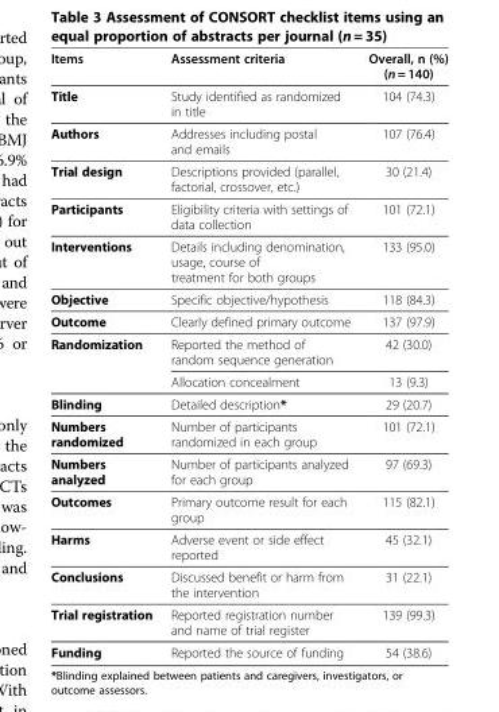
<table><thead><tr><td>Items</td><td>Assessment criteria</td><td>Overall, n (%) (n = 140)</td></tr></thead><tbody><tr><td>Title</td><td>Study identified as randomized in title</td><td>104 (74.3)</td></tr><tr><td>Authors</td><td>Addresses including postal and emails</td><td>107 (76.4)</td></tr><tr><td>Trial design</td><td>Descriptions provided (parallel, factorial, crossover, etc.)</td><td>30 (21.4)</td></tr><tr><td>Participants</td><td>Eligibility criteria with settings of data collection</td><td>101 (72.1)</td></tr><tr><td>Interventions</td><td>Details including denomination, usage, course of treatment for both groups</td><td>133 (95.0)</td></tr><tr><td>Objective</td><td>Specific objective/hypothesis</td><td>118 (84.3)</td></tr><tr><td>Outcome</td><td>Clearly defined primary outcome</td><td>137 (97.9)</td></tr><tr><td rowspan="2">Randomization</td><td>Reported the method of random sequence generation</td><td>42 (30.0)</td></tr><tr><td>Allocation concealment</td><td>13 (9.3)</td></tr><tr><td>Blinding</td><td>Detailed description*</td><td>29 (20.7)</td></tr><tr><td>Numbers randomized</td><td>Number of participants randomized in each group</td><td>101 (72.1)</td></tr><tr><td>Numbers analyzed</td><td>Number of participants analyzed for each group</td><td>97 (69.3)</td></tr><tr><td>Outcomes</td><td>Primary outcome result for each group</td><td>115 (82.1)</td></tr><tr><td>Harms</td><td>Adverse event or side effect reported</td><td>45 (32.1)</td></tr><tr><td>Conclusions</td><td>Discussed benefit or harm from the intervention</td><td>31 (22.1)</td></tr><tr><td>Trial registration</td><td>Reported registration number and name of trial register</td><td>139 (99.3)</td></tr><tr><td>Funding</td><td>Reported the source of funding</td><td>54 (38.6)</td></tr></tbody></table>